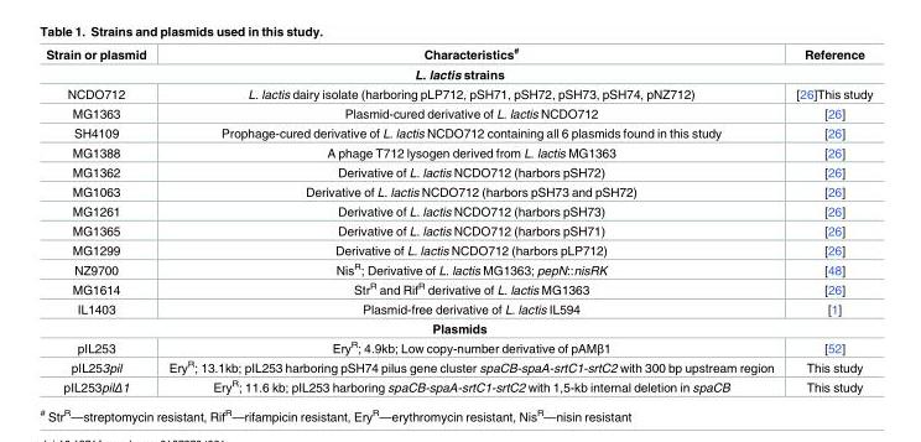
<table><thead><tr><td>Strain or plasmid</td><td>Characteristics<sup>#</sup></td><td>Reference</td></tr></thead><tbody><tr><td colspan="3">L. lactis strains</td></tr><tr><td>NCDO712</td><td>L. lactis dairy isolate (harboring pLP712, pSH71, pSH72, pSH73, pSH74, pNZ712)</td><td>[26]This study</td></tr><tr><td>MG1363</td><td>Plasmid-cured derivative of L. lactis NCDO712</td><td>[26]</td></tr><tr><td>SH4109</td><td>Prophage-cured derivative of L. lactis NCDO712 containing all 6 plasmids found in this study</td><td>[26]</td></tr><tr><td>MG1388</td><td>A phage T712 lysogen derived from L. lactis MG1363</td><td>[26]</td></tr><tr><td>MG1362</td><td>Derivative of L. lactis NCDO712 (harbors pSH72)</td><td>[26]</td></tr><tr><td>MG1063</td><td>Derivative of L. lactis NCDO712 (harbors pSH73 and pSH72)</td><td>[26]</td></tr><tr><td>MG1261</td><td>Derivative of L. lactis NCDO712 (harbors pSH73)</td><td>[26]</td></tr><tr><td>MG1365</td><td>Derivative of L. lactis NCDO712 (harbors pSH71)</td><td>[26]</td></tr><tr><td>MG1299</td><td>Derivative of L. lactis NCDO712 (harbors pLP712)</td><td>[26]</td></tr><tr><td>NZ9700</td><td>Nis<sup>R</sup>; Derivative of L. lactis MG1363; pepN::nisRK</td><td>[48]</td></tr><tr><td>MG1614</td><td>Str<sup>R</sup> and Rif<sup>R</sup> derivative of L. lactis MG1363</td><td>[26]</td></tr><tr><td>IL1403</td><td>Plasmid-free derivative of L. lactis IL594</td><td>[1]</td></tr><tr><td colspan="3">Plasmids</td></tr><tr><td>pIL253</td><td>Ery<sup>R</sup>; 4.9kb; Low copy-number derivative of pAMβ1</td><td>[52]</td></tr><tr><td>pIL253pil</td><td>Ery<sup>R</sup>; 13.1kb; pIL253 harboring pSH74 pilus gene cluster spaCB-spaA-srtC1-srtC2 with 300 bp upstream region</td><td>This study</td></tr><tr><td>pIL253pilΔ1</td><td>Ery<sup>R</sup>; 11.6 kb; pIL253 harboring spaCB-spaA-srtC1-srtC2 with 1,5-kb internal deletion in spaCB</td><td>This study</td></tr></tbody></table>